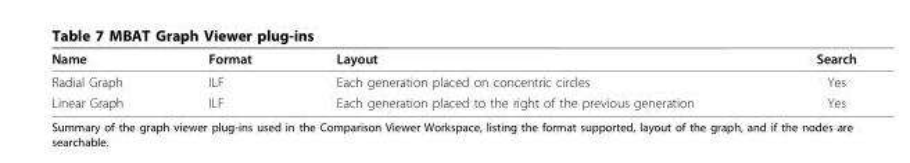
<table><thead><tr><td>Name</td><td>Format</td><td>Layout</td><td>Search</td></tr></thead><tbody><tr><td>Radial Graph</td><td>ILF</td><td>Each generation placed on concentric circles</td><td>Yes</td></tr><tr><td>Linear Graph</td><td>ILF</td><td>Each generation placed to the right of the previous generation</td><td>Yes</td></tr></tbody></table>